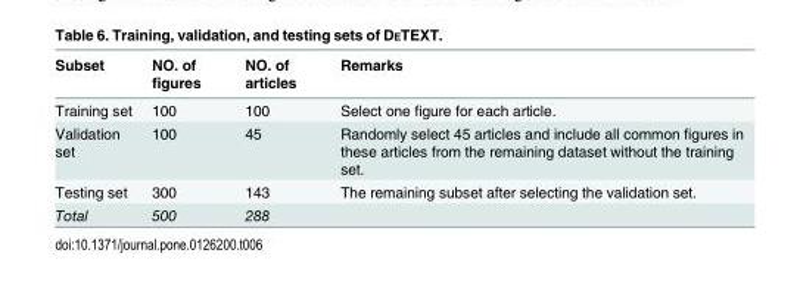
<table><thead><tr><td>Subset</td><td>NO. of figures</td><td>NO. of articles</td><td>Remarks</td></tr></thead><tbody><tr><td>Training set</td><td>100</td><td>100</td><td>Select one figure for each article.</td></tr><tr><td>Validation set</td><td>100</td><td>45</td><td>Randomly select 45 articles and include all common figures in these articles from the remaining dataset without the training set.</td></tr><tr><td>Testing set</td><td>300</td><td>143</td><td>The remaining subset after selecting the validation set.</td></tr><tr><td>Total</td><td>500</td><td>288</td><td></td></tr></tbody></table>